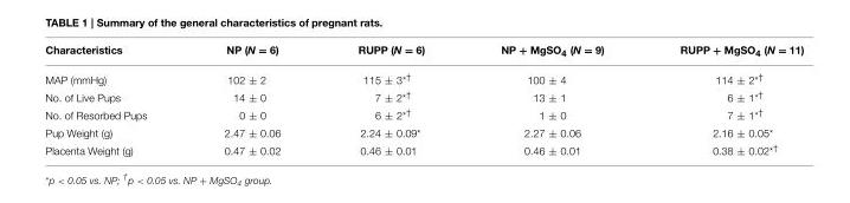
<table><thead><tr><td>Characteristics</td><td>NP (N = 6)</td><td>RUPP (N = 6)</td><td>NP + MgSO<sub>4</sub> (N = 9)</td><td>RUPP + MgSO<sub>4</sub> (N = 11)</td></tr></thead><tbody><tr><td>MAP (mmHg)</td><td>102 ± 2</td><td>115 ± 3<sup>*†</sup></td><td>100 ± 4</td><td>114 ± 2<sup>*†</sup></td></tr><tr><td>No. of Live Pups</td><td>14 ± 0</td><td>7 ± 2<sup>*†</sup></td><td>13 ± 1</td><td>6 ± 1<sup>*†</sup></td></tr><tr><td>No. of Resorbed Pups</td><td>0 ± 0</td><td>6 ± 2<sup>*†</sup></td><td>1 ± 0</td><td>7 ± 1<sup>*†</sup></td></tr><tr><td>Pup Weight (g)</td><td>2.47 ± 0.06</td><td>2.24 ± 0.09*</td><td>2.27 ± 0.06</td><td>2.16 ± 0.05*</td></tr><tr><td>Placenta Weight (g)</td><td>0.47 ± 0.02</td><td>0.46 ± 0.01</td><td>0.46 ± 0.01</td><td>0.38 ± 0.02<sup>*†</sup></td></tr></tbody></table>